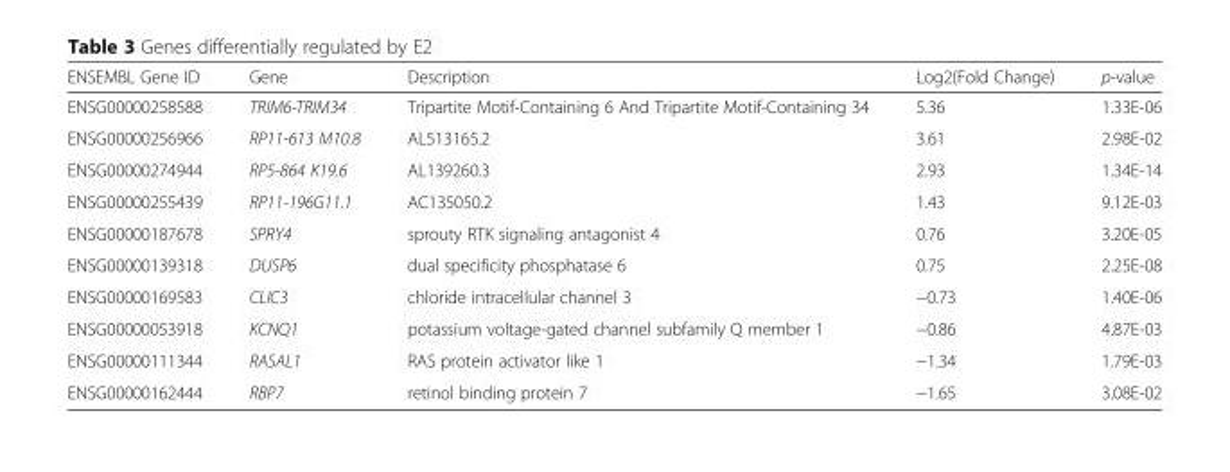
<table><thead><tr><td>ENSEMBL Gene ID</td><td>Gene</td><td>Description</td><td>Log2(Fold Change)</td><td>p-value</td></tr></thead><tbody><tr><td>ENSG00000258588</td><td>TRIM6-TRIM34</td><td>Tripartite Motif-Containing 6 And Tripartite Motif-Containing 34</td><td>5.36</td><td>1.33E-06</td></tr><tr><td>ENSG00000256966</td><td>RP11-613 M10.8</td><td>AL513165.2</td><td>3.61</td><td>2.98E-02</td></tr><tr><td>ENSG00000274944</td><td>RP5-864 K19.6</td><td>AL139260.3</td><td>2.93</td><td>1.34E-14</td></tr><tr><td>ENSG00000255439</td><td>RP11-196G11.1</td><td>AC135050.2</td><td>1.43</td><td>9.12E-03</td></tr><tr><td>ENSG00000187678</td><td>SPRY4</td><td>sprouty RTK signaling antagonist 4</td><td>0.76</td><td>3.20E-05</td></tr><tr><td>ENSG00000139318</td><td>DUSP6</td><td>dual specificity phosphatase 6</td><td>0.75</td><td>2.25E-08</td></tr><tr><td>ENSG00000169583</td><td>CLIC3</td><td>chloride intracellular channel 3</td><td>−0.73</td><td>1.40E-06</td></tr><tr><td>ENSG00000053918</td><td>KCNQ1</td><td>potassium voltage-gated channel subfamily Q member 1</td><td>−0.86</td><td>4.87E-03</td></tr><tr><td>ENSG00000111344</td><td>RASAL1</td><td>RAS protein activator like 1</td><td>−1.34</td><td>1.79E-03</td></tr><tr><td>ENSG00000162444</td><td>RBP7</td><td>retinol binding protein 7</td><td>−1.65</td><td>3.08E-02</td></tr></tbody></table>